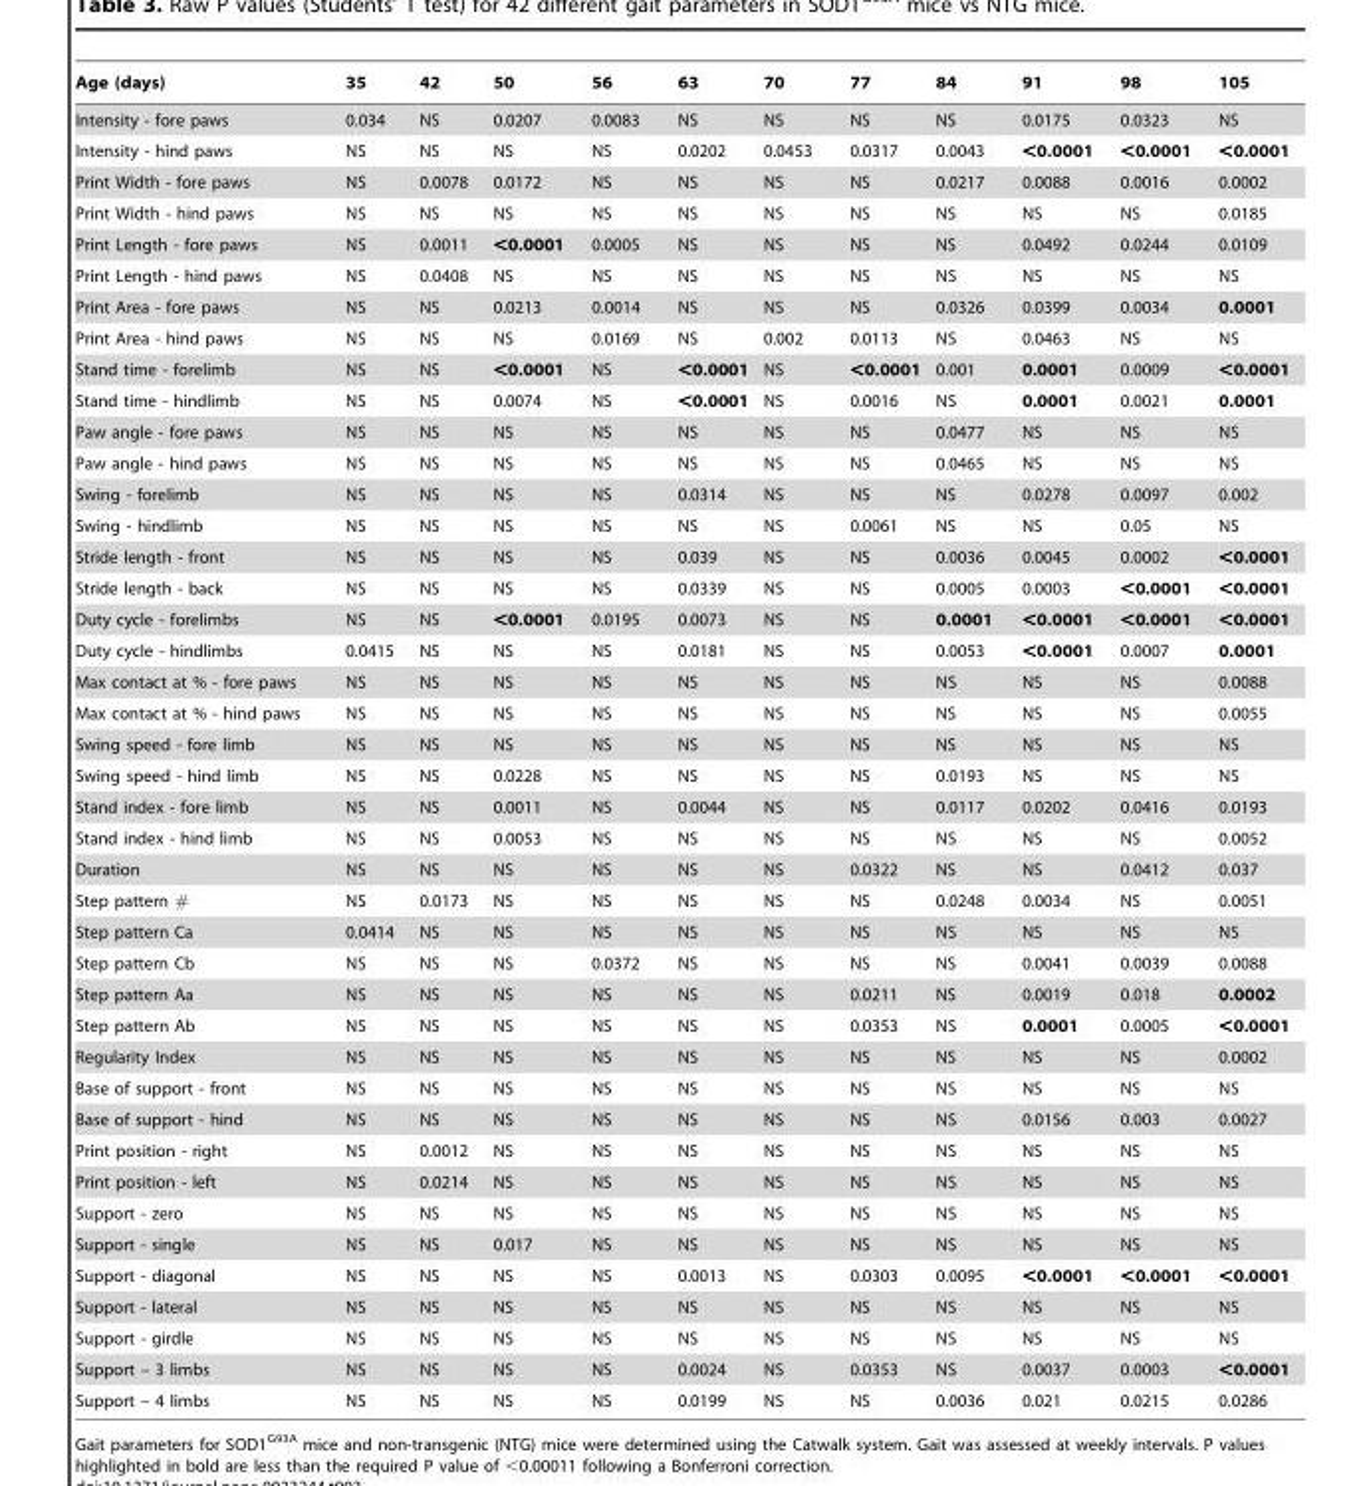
<table><thead><tr><td>Age (days)</td><td>35</td><td>42</td><td>50</td><td>56</td><td>63</td><td>70</td><td>77</td><td>84</td><td>91</td><td>98</td><td>105</td></tr></thead><tbody><tr><td>Intensity - fore paws</td><td>0.034</td><td>NS</td><td>0.0207</td><td>0.0083</td><td>NS</td><td>NS</td><td>NS</td><td>NS</td><td>0.0175</td><td>0.0323</td><td>NS</td></tr><tr><td>Intensity - hind paws</td><td>NS</td><td>NS</td><td>NS</td><td>NS</td><td>0.0202</td><td>0.0453</td><td>0.0317</td><td>0.0043</td><td>&lt;0.0001</td><td>&lt;0.0001</td><td>&lt;0.0001</td></tr><tr><td>Print Width - fore paws</td><td>NS</td><td>0.0078</td><td>0.0172</td><td>NS</td><td>NS</td><td>NS</td><td>NS</td><td>0.0217</td><td>0.0088</td><td>0.0016</td><td>0.0002</td></tr><tr><td>Print Width - hind paws</td><td>NS</td><td>NS</td><td>NS</td><td>NS</td><td>NS</td><td>NS</td><td>NS</td><td>NS</td><td>NS</td><td>NS</td><td>0.0185</td></tr><tr><td>Print Length - fore paws</td><td>NS</td><td>0.0011</td><td>&lt;0.0001</td><td>0.0005</td><td>NS</td><td>NS</td><td>NS</td><td>NS</td><td>0.0492</td><td>0.0244</td><td>0.0109</td></tr><tr><td>Print Length - hind paws</td><td>NS</td><td>0.0408</td><td>NS</td><td>NS</td><td>NS</td><td>NS</td><td>NS</td><td>NS</td><td>NS</td><td>NS</td><td>NS</td></tr><tr><td>Print Area - fore paws</td><td>NS</td><td>NS</td><td>0.0213</td><td>0.0014</td><td>NS</td><td>NS</td><td>NS</td><td>0.0326</td><td>0.0399</td><td>0.0034</td><td>0.0001</td></tr><tr><td>Print Area - hind paws</td><td>NS</td><td>NS</td><td>NS</td><td>0.0169</td><td>NS</td><td>0.002</td><td>0.0113</td><td>NS</td><td>0.0463</td><td>NS</td><td>NS</td></tr><tr><td>Stand time - forelimb</td><td>NS</td><td>NS</td><td>&lt;0.0001</td><td>NS</td><td>&lt;0.0001</td><td>NS</td><td>&lt;0.0001</td><td>0.001</td><td>0.0001</td><td>0.0009</td><td>&lt;0.0001</td></tr><tr><td>Stand time - hindlimb</td><td>NS</td><td>NS</td><td>0.0074</td><td>NS</td><td>&lt;0.0001</td><td>NS</td><td>0.0016</td><td>NS</td><td>0.0001</td><td>0.0021</td><td>0.0001</td></tr><tr><td>Paw angle - fore paws</td><td>NS</td><td>NS</td><td>NS</td><td>NS</td><td>NS</td><td>NS</td><td>NS</td><td>0.0477</td><td>NS</td><td>NS</td><td>NS</td></tr><tr><td>Paw angle - hind paws</td><td>NS</td><td>NS</td><td>NS</td><td>NS</td><td>NS</td><td>NS</td><td>NS</td><td>0.0465</td><td>NS</td><td>NS</td><td>NS</td></tr><tr><td>Swing - forelimb</td><td>NS</td><td>NS</td><td>NS</td><td>NS</td><td>0.0314</td><td>NS</td><td>NS</td><td>NS</td><td>0.0278</td><td>0.0097</td><td>0.002</td></tr><tr><td>Swing - hindlimb</td><td>NS</td><td>NS</td><td>NS</td><td>NS</td><td>NS</td><td>NS</td><td>0.0061</td><td>NS</td><td>NS</td><td>0.05</td><td>NS</td></tr><tr><td>Stride length - front</td><td>NS</td><td>NS</td><td>NS</td><td>NS</td><td>0.039</td><td>NS</td><td>NS</td><td>0.0036</td><td>0.0045</td><td>0.0002</td><td>&lt;0.0001</td></tr><tr><td>Stride length - back</td><td>NS</td><td>NS</td><td>NS</td><td>NS</td><td>0.0339</td><td>NS</td><td>NS</td><td>0.0005</td><td>0.0003</td><td>&lt;0.0001</td><td>&lt;0.0001</td></tr><tr><td>Duty cycle - forelimbs</td><td>NS</td><td>NS</td><td>&lt;0.0001</td><td>0.0195</td><td>0.0073</td><td>NS</td><td>NS</td><td>0.0001</td><td>&lt;0.0001</td><td>&lt;0.0001</td><td>&lt;0.0001</td></tr><tr><td>Duty cycle - hindlimbs</td><td>0.0415</td><td>NS</td><td>NS</td><td>NS</td><td>0.0181</td><td>NS</td><td>NS</td><td>0.0053</td><td>&lt;0.0001</td><td>0.0007</td><td>0.0001</td></tr><tr><td>Max contact at % - fore paws</td><td>NS</td><td>NS</td><td>NS</td><td>NS</td><td>NS</td><td>NS</td><td>NS</td><td>NS</td><td>NS</td><td>NS</td><td>0.0088</td></tr><tr><td>Max contact at % - hind paws</td><td>NS</td><td>NS</td><td>NS</td><td>NS</td><td>NS</td><td>NS</td><td>NS</td><td>NS</td><td>NS</td><td>NS</td><td>0.0055</td></tr><tr><td>Swing speed - fore limb</td><td>NS</td><td>NS</td><td>NS</td><td>NS</td><td>NS</td><td>NS</td><td>NS</td><td>NS</td><td>NS</td><td>NS</td><td>NS</td></tr><tr><td>Swing speed - hind limb</td><td>NS</td><td>NS</td><td>0.0228</td><td>NS</td><td>NS</td><td>NS</td><td>NS</td><td>0.0193</td><td>NS</td><td>NS</td><td>NS</td></tr><tr><td>Stand index - fore limb</td><td>NS</td><td>NS</td><td>0.0011</td><td>NS</td><td>0.0044</td><td>NS</td><td>NS</td><td>0.0117</td><td>0.0202</td><td>0.0416</td><td>0.0193</td></tr><tr><td>Stand index - hind limb</td><td>NS</td><td>NS</td><td>0.0053</td><td>NS</td><td>NS</td><td>NS</td><td>NS</td><td>NS</td><td>NS</td><td>NS</td><td>0.0052</td></tr><tr><td>Duration</td><td>NS</td><td>NS</td><td>NS</td><td>NS</td><td>NS</td><td>NS</td><td>0.0322</td><td>NS</td><td>NS</td><td>0.0412</td><td>0.037</td></tr><tr><td>Step pattern #</td><td>NS</td><td>0.0173</td><td>NS</td><td>NS</td><td>NS</td><td>NS</td><td>NS</td><td>0.0248</td><td>0.0034</td><td>NS</td><td>0.0051</td></tr><tr><td>Step pattern Ca</td><td>0.0414</td><td>NS</td><td>NS</td><td>NS</td><td>NS</td><td>NS</td><td>NS</td><td>NS</td><td>NS</td><td>NS</td><td>NS</td></tr><tr><td>Step pattern Cb</td><td>NS</td><td>NS</td><td>NS</td><td>0.0372</td><td>NS</td><td>NS</td><td>NS</td><td>NS</td><td>0.0041</td><td>0.0039</td><td>0.0088</td></tr><tr><td>Step pattern Aa</td><td>NS</td><td>NS</td><td>NS</td><td>NS</td><td>NS</td><td>NS</td><td>0.0211</td><td>NS</td><td>0.0019</td><td>0.018</td><td>0.0002</td></tr><tr><td>Step pattern Ab</td><td>NS</td><td>NS</td><td>NS</td><td>NS</td><td>NS</td><td>NS</td><td>0.0353</td><td>NS</td><td>0.0001</td><td>0.0005</td><td>&lt;0.0001</td></tr><tr><td>Regularity Index</td><td>NS</td><td>NS</td><td>NS</td><td>NS</td><td>NS</td><td>NS</td><td>NS</td><td>NS</td><td>NS</td><td>NS</td><td>0.0002</td></tr><tr><td>Base of support - front</td><td>NS</td><td>NS</td><td>NS</td><td>NS</td><td>NS</td><td>NS</td><td>NS</td><td>NS</td><td>NS</td><td>NS</td><td>NS</td></tr><tr><td>Base of support - hind</td><td>NS</td><td>NS</td><td>NS</td><td>NS</td><td>NS</td><td>NS</td><td>NS</td><td>NS</td><td>0.0156</td><td>0.003</td><td>0.0027</td></tr><tr><td>Print position - right</td><td>NS</td><td>0.0012</td><td>NS</td><td>NS</td><td>NS</td><td>NS</td><td>NS</td><td>NS</td><td>NS</td><td>NS</td><td>NS</td></tr><tr><td>Print position - left</td><td>NS</td><td>0.0214</td><td>NS</td><td>NS</td><td>NS</td><td>NS</td><td>NS</td><td>NS</td><td>NS</td><td>NS</td><td>NS</td></tr><tr><td>Support - zero</td><td>NS</td><td>NS</td><td>NS</td><td>NS</td><td>NS</td><td>NS</td><td>NS</td><td>NS</td><td>NS</td><td>NS</td><td>NS</td></tr><tr><td>Support - single</td><td>NS</td><td>NS</td><td>0.017</td><td>NS</td><td>NS</td><td>NS</td><td>NS</td><td>NS</td><td>NS</td><td>NS</td><td>NS</td></tr><tr><td>Support - diagonal</td><td>NS</td><td>NS</td><td>NS</td><td>NS</td><td>0.0013</td><td>NS</td><td>0.0303</td><td>0.0095</td><td>&lt;0.0001</td><td>&lt;0.0001</td><td>&lt;0.0001</td></tr><tr><td>Support - lateral</td><td>NS</td><td>NS</td><td>NS</td><td>NS</td><td>NS</td><td>NS</td><td>NS</td><td>NS</td><td>NS</td><td>NS</td><td>NS</td></tr><tr><td>Support - girdle</td><td>NS</td><td>NS</td><td>NS</td><td>NS</td><td>NS</td><td>NS</td><td>NS</td><td>NS</td><td>NS</td><td>NS</td><td>NS</td></tr><tr><td>Support – 3 limbs</td><td>NS</td><td>NS</td><td>NS</td><td>NS</td><td>0.0024</td><td>NS</td><td>0.0353</td><td>NS</td><td>0.0037</td><td>0.0003</td><td>&lt;0.0001</td></tr><tr><td>Support – 4 limbs</td><td>NS</td><td>NS</td><td>NS</td><td>NS</td><td>0.0199</td><td>NS</td><td>NS</td><td>0.0036</td><td>0.021</td><td>0.0215</td><td>0.0286</td></tr></tbody></table>